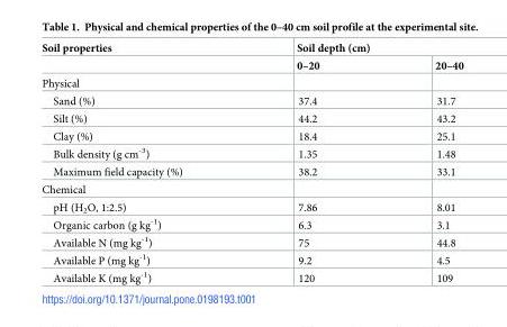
<table><thead><tr><td rowspan="2">Soil properties</td><td colspan="2">Soil depth (cm)</td></tr><tr><td>0–20</td><td>20–40</td></tr></thead><tbody><tr><td colspan="3">Physical</td></tr><tr><td>Sand (%)</td><td>37.4</td><td>31.7</td></tr><tr><td>Silt (%)</td><td>44.2</td><td>43.2</td></tr><tr><td>Clay (%)</td><td>18.4</td><td>25.1</td></tr><tr><td>Bulk density (g cm<sup>-3</sup>)</td><td>1.35</td><td>1.48</td></tr><tr><td>Maximum field capacity (%)</td><td>38.2</td><td>33.1</td></tr><tr><td colspan="3">Chemical</td></tr><tr><td>pH (H<sub>2</sub>O, 1:2.5)</td><td>7.86</td><td>8.01</td></tr><tr><td>Organic carbon (g kg<sup>-1</sup>)</td><td>6.3</td><td>3.1</td></tr><tr><td>Available N (mg kg<sup>-1</sup>)</td><td>75</td><td>44.8</td></tr><tr><td>Available P (mg kg<sup>-1</sup>)</td><td>9.2</td><td>4.5</td></tr><tr><td>Available K (mg kg<sup>-1</sup>)</td><td>120</td><td>109</td></tr></tbody></table>